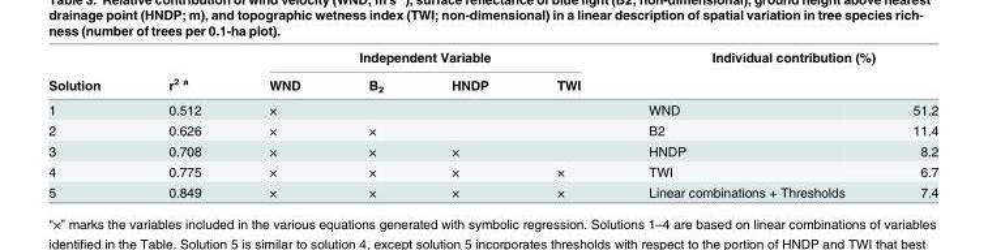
<table><thead><tr><td rowspan="3">Solution 1</td><td rowspan="3">r<sup>2 a</sup> 0.512</td><td colspan="4">Independent Variable</td><td rowspan="2" colspan="2">Individual contribution (%)</td></tr><tr><td rowspan="2">WND ×</td><td rowspan="2">B2</td><td rowspan="2">HNDP</td><td rowspan="2">TWI</td></tr><tr><td>WND</td><td>51.2</td></tr></thead><tbody><tr><td>2</td><td>0.626</td><td>×</td><td>×</td><td></td><td></td><td>B2</td><td>11.4</td></tr><tr><td>3</td><td>0.708</td><td>×</td><td>×</td><td>×</td><td></td><td>HNDP</td><td>8.2</td></tr><tr><td>4</td><td>0.775</td><td>×</td><td>×</td><td>×</td><td>×</td><td>TWI</td><td>6.7</td></tr><tr><td>5</td><td>0.849</td><td>×</td><td>×</td><td>×</td><td>×</td><td>Linear combinations + Thresholds</td><td>7.4</td></tr></tbody></table>